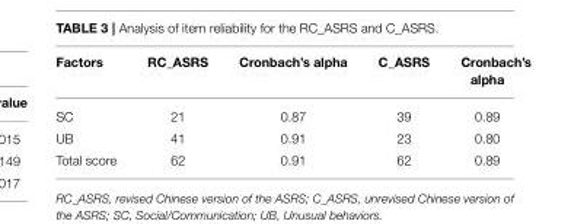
<table><thead><tr><td>Factors</td><td>RC_ASRS</td><td>Cronbach’s alpha</td><td>C_ASRS</td><td>Cronbach’s alpha</td></tr></thead><tbody><tr><td>SC</td><td>21</td><td>0.87</td><td>39</td><td>0.89</td></tr><tr><td>UB</td><td>41</td><td>0.91</td><td>23</td><td>0.80</td></tr><tr><td>Total score</td><td>62</td><td>0.91</td><td>62</td><td>0.89</td></tr></tbody></table>